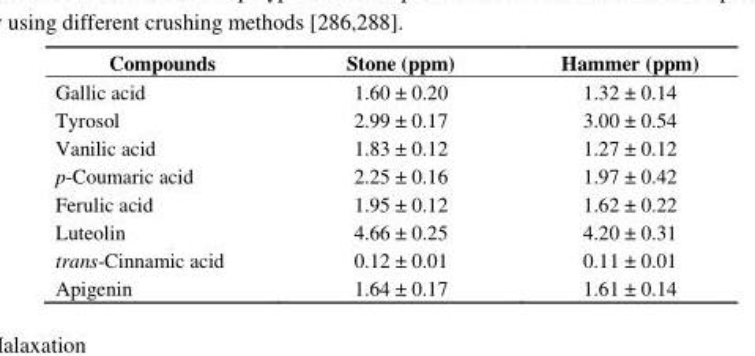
<table><thead><tr><td>Compounds</td><td>Stone (ppm)</td><td>Hammer (ppm)</td></tr></thead><tbody><tr><td>Gallic acid</td><td>1.60 ± 0.20</td><td>1.32 ± 0.14</td></tr><tr><td>Tyrosol</td><td>2.99 ± 0.17</td><td>3.00 ± 0.54</td></tr><tr><td>Vanilic acid</td><td>1.83 ± 0.12</td><td>1.27 ± 0.12</td></tr><tr><td>p-Coumaric acid</td><td>2.25 ± 0.16</td><td>1.97 ± 0.42</td></tr><tr><td>Ferulic acid</td><td>1.95 ± 0.12</td><td>1.62 ± 0.22</td></tr><tr><td>Luteolin</td><td>4.66 ± 0.25</td><td>4.20 ± 0.31</td></tr><tr><td>trans-Cinnamic acid</td><td>0.12 ± 0.01</td><td>0.11 ± 0.01</td></tr><tr><td>Apigenin</td><td>1.64 ± 0.17</td><td>1.61 ± 0.14</td></tr></tbody></table>